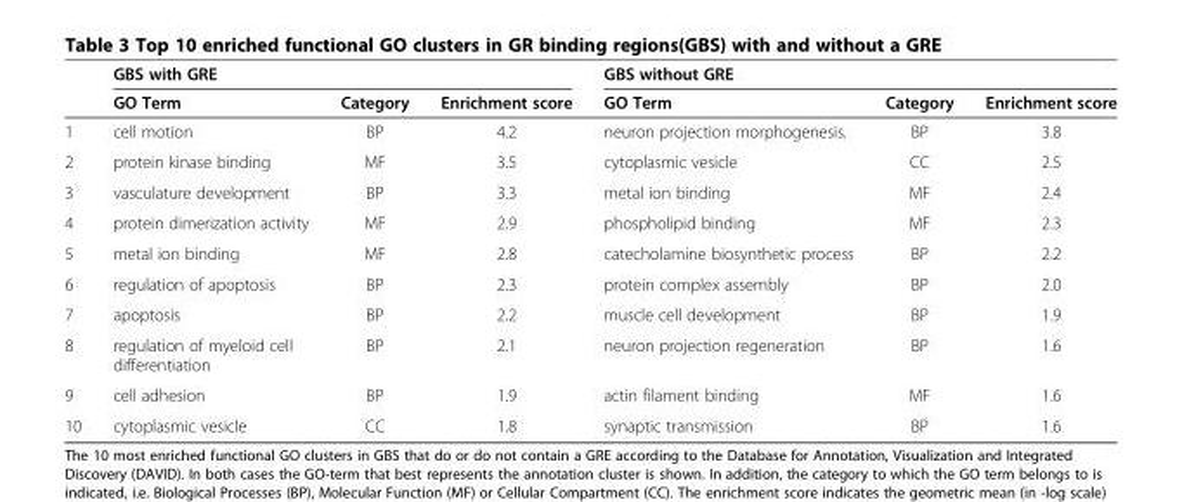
<table><thead><tr><td rowspan="2"></td><td colspan="3">GBS with GRE</td><td colspan="3">GBS without GRE</td></tr><tr><td>GO Term</td><td>Category</td><td>Enrichment score</td><td>GO Term</td><td>Category</td><td>Enrichment score</td></tr></thead><tbody><tr><td>1</td><td>cell motion</td><td>BP</td><td>4.2</td><td>neuron projection morphogenesis.</td><td>BP</td><td>3.8</td></tr><tr><td>2</td><td>protein kinase binding</td><td>MF</td><td>3.5</td><td>cytoplasmic vesicle</td><td>CC</td><td>2.5</td></tr><tr><td>3</td><td>vasculature development</td><td>BP</td><td>3.3</td><td>metal ion binding</td><td>MF</td><td>2.4</td></tr><tr><td>4</td><td>protein dimerization activity</td><td>MF</td><td>2.9</td><td>phospholipid binding</td><td>MF</td><td>2.3</td></tr><tr><td>5</td><td>metal ion binding</td><td>MF</td><td>2.8</td><td>catecholamine biosynthetic process</td><td>BP</td><td>2.2</td></tr><tr><td>6</td><td>regulation of apoptosis</td><td>BP</td><td>2.3</td><td>protein complex assembly</td><td>BP</td><td>2.0</td></tr><tr><td>7</td><td>apoptosis</td><td>BP</td><td>2.2</td><td>muscle cell development</td><td>BP</td><td>1.9</td></tr><tr><td>8</td><td>regulation of myeloid cell differentiation</td><td>BP</td><td>2.1</td><td>neuron projection regeneration</td><td>BP</td><td>1.6</td></tr><tr><td>9</td><td>cell adhesion</td><td>BP</td><td>1.9</td><td>actin filament binding</td><td>MF</td><td>1.6</td></tr><tr><td>10</td><td>cytoplasmic vesicle</td><td>CC</td><td>1.8</td><td>synaptic transmission</td><td>BP</td><td>1.6</td></tr></tbody></table>